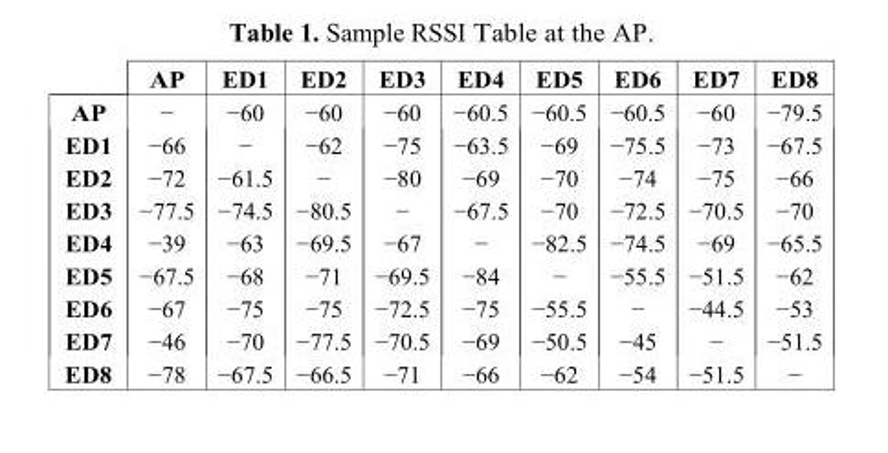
<table><thead><tr><td></td><td>AP</td><td>ED1</td><td>ED2</td><td>ED3</td><td>ED4</td><td>ED5</td><td>ED6</td><td>ED7</td><td>ED8</td></tr></thead><tbody><tr><td>AP</td><td>−</td><td>−60</td><td>−60</td><td>−60</td><td>−60.5</td><td>−60.5</td><td>−60.5</td><td>−60</td><td>−79.5</td></tr><tr><td>ED1</td><td>−66</td><td>−</td><td>−62</td><td>−75</td><td>−63.5</td><td>−69</td><td>−75.5</td><td>−73</td><td>−67.5</td></tr><tr><td>ED2</td><td>−72</td><td>−61.5</td><td>−</td><td>−80</td><td>−69</td><td>−70</td><td>−74</td><td>−75</td><td>−66</td></tr><tr><td>ED3</td><td>−77.5</td><td>−74.5</td><td>−80.5</td><td>−</td><td>−67.5</td><td>−70</td><td>−72.5</td><td>−70.5</td><td>−70</td></tr><tr><td>ED4</td><td>−39</td><td>−63</td><td>−69.5</td><td>−67</td><td>−</td><td>−82.5</td><td>−74.5</td><td>−69</td><td>−65.5</td></tr><tr><td>ED5</td><td>−67.5</td><td>−68</td><td>−71</td><td>−69.5</td><td>−84</td><td>−</td><td>−55.5</td><td>−51.5</td><td>−62</td></tr><tr><td>ED6</td><td>−67</td><td>−75</td><td>−75</td><td>−72.5</td><td>−75</td><td>−55.5</td><td>−</td><td>−44.5</td><td>−53</td></tr><tr><td>ED7</td><td>−46</td><td>−70</td><td>−77.5</td><td>−70.5</td><td>−69</td><td>−50.5</td><td>−45</td><td>−</td><td>−51.5</td></tr><tr><td>ED8</td><td>−78</td><td>−67.5</td><td>−66.5</td><td>−71</td><td>−66</td><td>−62</td><td>−54</td><td>−51.5</td><td>−</td></tr></tbody></table>